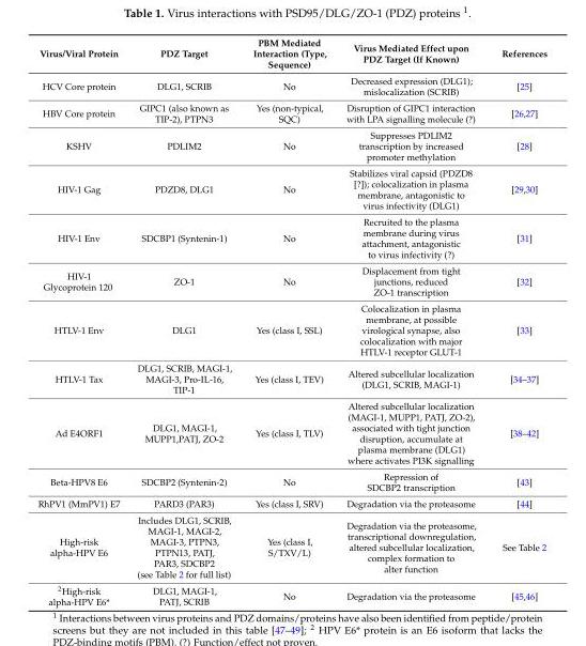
<table><thead><tr><td>Virus/Viral Protein</td><td>PDZ Target</td><td>PBM Mediated Interaction (Type, Sequence)</td><td>Virus Mediated Effect upon PDZ Target (If Known)</td><td>References</td></tr></thead><tbody><tr><td>HCV Core protein</td><td>DLG1, SCRIB</td><td>No</td><td>Decreased expression (DLG1); mislocalization (SCRIB)</td><td>[25]</td></tr><tr><td>HBV Core protein</td><td>GIPC1 (also known as TIP-2), PTPN3</td><td>Yes (non-typical, SQC)</td><td>Disruption of GIPC1 interaction with LPA signalling molecule (?)</td><td>[26,27]</td></tr><tr><td>KSHV</td><td>PDLIM2</td><td>No</td><td>Suppresses PDLIM2 transcription by increased promoter methylation</td><td>[28]</td></tr><tr><td>HIV-1 Gag</td><td>PDZD8, DLG1</td><td>No</td><td>Stabilizes viral capsid (PDZD8 [?]); colocalization in plasma membrane, antagonistic to virus infectivity (DLG1)</td><td>[29,30]</td></tr><tr><td>HIV-1 Env</td><td>SDCBP1 (Syntenin-1)</td><td>No</td><td>Recruited to the plasma membrane during virus attachment, antagonistic to virus infectivity (?)</td><td>[31]</td></tr><tr><td>HIV-1 Glycoprotein 120</td><td>ZO-1</td><td>No</td><td>Displacement from tight junctions, reduced ZO-1 transcription</td><td>[32]</td></tr><tr><td>HTLV-1 Env</td><td>DLG1</td><td>Yes (class I, SSL)</td><td>Colocalization in plasma membrane, at possible virological synapse, also colocalization with major HTLV-1 receptor GLUT-1</td><td>[33]</td></tr><tr><td>HTLV-1 Tax</td><td>DLG1, SCRIB, MAGI-1, MAGI-3, Pro-IL-16, TIP-1</td><td>Yes (class I, TEV)</td><td>Altered subcellular localization (DLG1, SCRIB, MAGI-1)</td><td>[34–37]</td></tr><tr><td>Ad E4ORF1</td><td>DLG1, MAGI-1, MUPP1,PATJ, ZO-2</td><td>Yes (class I, TLV)</td><td>Altered subcellular localization (MAGI-1, MUPP1, PATJ, ZO-2), associated with tight junction disruption, accumulate at plasma membrane (DLG1) where activates PI3K signalling</td><td>[38–42]</td></tr><tr><td>Beta-HPV8 E6</td><td>SDCBP2 (Syntenin-2)</td><td>No</td><td>Repression of SDCBP2 transcription</td><td>[43]</td></tr><tr><td>RhPV1 (MmPV1) E7</td><td>PARD3 (PAR3)</td><td>Yes (class I, SRV)</td><td>Degradation via the proteasome</td><td>[44]</td></tr><tr><td>High-risk alpha-HPV E6</td><td>Includes DLG1, SCRIB, MAGI-1, MAGI-2, MAGI-3, PTPN3, PTPN13, PATJ, PAR3, SDCBP2 (see Table 2 for full list)</td><td>Yes (class I, S/TXV/L)</td><td>Degradation via the proteasome, transcriptional downregulation, altered subcellular localization, complex formation to alter function</td><td>See Table 2</td></tr><tr><td><sup>2</sup>High-risk alpha-HPV E6*</td><td>DLG1, MAGI-1, PATJ, SCRIB</td><td>No</td><td>Degradation via the proteasome</td><td>[45,46]</td></tr></tbody></table>